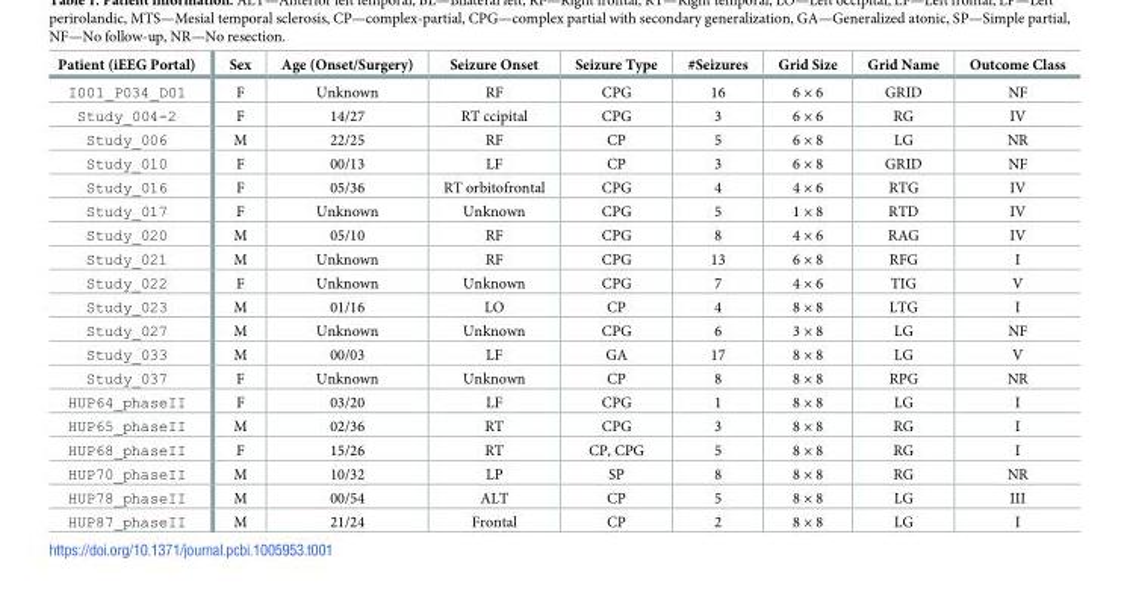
<table><thead><tr><td>Patient (iEEG Portal)</td><td>Sex</td><td>Age (Onset/Surgery)</td><td>Seizure Onset</td><td>Seizure Type</td><td>#Seizures</td><td>Grid Size</td><td>Grid Name</td><td>Outcome Class</td></tr></thead><tbody><tr><td>I001_P034_D01</td><td>F</td><td>Unknown</td><td>RF</td><td>CPG</td><td>16</td><td>6 × 6</td><td>GRID</td><td>NF</td></tr><tr><td>Study_004-2</td><td>F</td><td>14/27</td><td>RT ccipital</td><td>CPG</td><td>3</td><td>6 × 6</td><td>RG</td><td>IV</td></tr><tr><td>Study_006</td><td>M</td><td>22/25</td><td>RF</td><td>CP</td><td>5</td><td>6 × 8</td><td>LG</td><td>NR</td></tr><tr><td>Study_010</td><td>F</td><td>00/13</td><td>LF</td><td>CP</td><td>3</td><td>6 × 8</td><td>GRID</td><td>NF</td></tr><tr><td>Study_016</td><td>F</td><td>05/36</td><td>RT orbitofrontal</td><td>CPG</td><td>4</td><td>4 × 6</td><td>RTG</td><td>IV</td></tr><tr><td>Study_017</td><td>F</td><td>Unknown</td><td>Unknown</td><td>CPG</td><td>5</td><td>1 × 8</td><td>RTD</td><td>IV</td></tr><tr><td>Study_020</td><td>M</td><td>05/10</td><td>RF</td><td>CPG</td><td>8</td><td>4 × 6</td><td>RAG</td><td>IV</td></tr><tr><td>Study_021</td><td>M</td><td>Unknown</td><td>RF</td><td>CPG</td><td>13</td><td>6 × 8</td><td>RFG</td><td>I</td></tr><tr><td>Study_022</td><td>F</td><td>Unknown</td><td>Unknown</td><td>CPG</td><td>7</td><td>4 × 6</td><td>TIG</td><td>V</td></tr><tr><td>Study_023</td><td>M</td><td>01/16</td><td>LO</td><td>CP</td><td>4</td><td>8 × 8</td><td>LTG</td><td>I</td></tr><tr><td>Study_027</td><td>M</td><td>Unknown</td><td>Unknown</td><td>CPG</td><td>6</td><td>3 × 8</td><td>LG</td><td>NF</td></tr><tr><td>Study_033</td><td>M</td><td>00/03</td><td>LF</td><td>GA</td><td>17</td><td>8 × 8</td><td>LG</td><td>V</td></tr><tr><td>Study_037</td><td>F</td><td>Unknown</td><td>Unknown</td><td>CP</td><td>8</td><td>8 × 8</td><td>RPG</td><td>NR</td></tr><tr><td>HUP64_phaseII</td><td>F</td><td>03/20</td><td>LF</td><td>CPG</td><td>1</td><td>8 × 8</td><td>LG</td><td>I</td></tr><tr><td>HUP65_phaseII</td><td>M</td><td>02/36</td><td>RT</td><td>CPG</td><td>3</td><td>8 × 8</td><td>RG</td><td>I</td></tr><tr><td>HUP68_phaseII</td><td>F</td><td>15/26</td><td>RT</td><td>CP, CPG</td><td>5</td><td>8 × 8</td><td>RG</td><td>I</td></tr><tr><td>HUP70_phaseII</td><td>M</td><td>10/32</td><td>LP</td><td>SP</td><td>8</td><td>8 × 8</td><td>RG</td><td>NR</td></tr><tr><td>HUP78_phaseII</td><td>M</td><td>00/54</td><td>ALT</td><td>CP</td><td>5</td><td>8 × 8</td><td>LG</td><td>III</td></tr><tr><td>HUP87_phaseII</td><td>M</td><td>21/24</td><td>Frontal</td><td>CP</td><td>2</td><td>8 × 8</td><td>LG</td><td>I</td></tr></tbody></table>